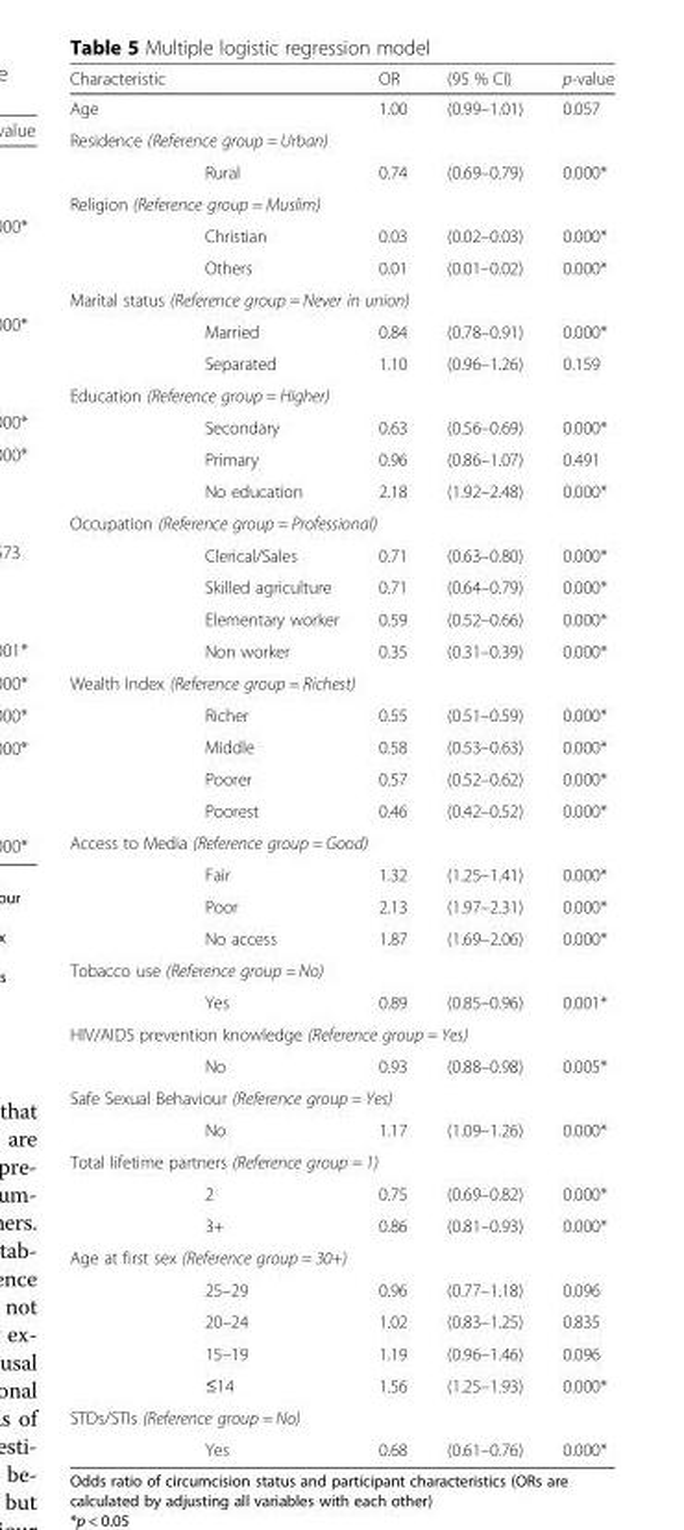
<table><thead><tr><td>Characteristic</td><td></td><td>OR</td><td>(95 % CI)</td><td>p-value</td></tr></thead><tbody><tr><td>Age</td><td></td><td>1.00</td><td>(0.99–1.01)</td><td>0.057</td></tr><tr><td colspan="5">Residence (Reference group = Urban)</td></tr><tr><td></td><td>Rural</td><td>0.74</td><td>(0.69–0.79)</td><td>0.000*</td></tr><tr><td colspan="5">Religion (Reference group = Muslim)</td></tr><tr><td></td><td>Christian</td><td>0.03</td><td>(0.02–0.03)</td><td>0.000*</td></tr><tr><td></td><td>Others</td><td>0.01</td><td>(0.01–0.02)</td><td>0.000*</td></tr><tr><td colspan="5">Marital status (Reference group = Never in union)</td></tr><tr><td></td><td>Married</td><td>0.84</td><td>(0.78–0.91)</td><td>0.000*</td></tr><tr><td></td><td>Separated</td><td>1.10</td><td>(0.96–1.26)</td><td>0.159</td></tr><tr><td colspan="5">Education (Reference group = Higher)</td></tr><tr><td></td><td>Secondary</td><td>0.63</td><td>(0.56–0.69)</td><td>0.000*</td></tr><tr><td></td><td>Primary</td><td>0.96</td><td>(0.86–1.07)</td><td>0.491</td></tr><tr><td></td><td>No education</td><td>2.18</td><td>(1.92–2.48)</td><td>0.000*</td></tr><tr><td colspan="5">Occupation (Reference group = Professional)</td></tr><tr><td></td><td>Clerical/Sales</td><td>0.71</td><td>(0.63–0.80)</td><td>0.000*</td></tr><tr><td></td><td>Skilled agriculture</td><td>0.71</td><td>(0.64–0.79)</td><td>0.000*</td></tr><tr><td></td><td>Elementary worker</td><td>0.59</td><td>(0.52–0.66)</td><td>0.000*</td></tr><tr><td></td><td>Non worker</td><td>0.35</td><td>(0.31–0.39)</td><td>0.000*</td></tr><tr><td colspan="5">Wealth Index (Reference group = Richest)</td></tr><tr><td></td><td>Richer</td><td>0.55</td><td>(0.51–0.59)</td><td>0.000*</td></tr><tr><td></td><td>Middle</td><td>0.58</td><td>(0.53–0.63)</td><td>0.000*</td></tr><tr><td></td><td>Poorer</td><td>0.57</td><td>(0.52–0.62)</td><td>0.000*</td></tr><tr><td></td><td>Poorest</td><td>0.46</td><td>(0.42–0.52)</td><td>0.000*</td></tr><tr><td colspan="5">Access to Media (Reference group = Good)</td></tr><tr><td></td><td>Fair</td><td>1.32</td><td>(1.25–1.41)</td><td>0.000*</td></tr><tr><td></td><td>Poor</td><td>2.13</td><td>(1.97–2.31)</td><td>0.000*</td></tr><tr><td></td><td>No access</td><td>1.87</td><td>(1.69–2.06)</td><td>0.000*</td></tr><tr><td colspan="5">Tobacco use (Reference group = No)</td></tr><tr><td></td><td>Yes</td><td>0.89</td><td>(0.85–0.96)</td><td>0.001*</td></tr><tr><td colspan="5">HIV/AIDS prevention knowledge (Reference group = Yes)</td></tr><tr><td></td><td>No</td><td>0.93</td><td>(0.88–0.98)</td><td>0.005*</td></tr><tr><td colspan="5">Safe Sexual Behaviour (Reference group = Yes)</td></tr><tr><td></td><td>No</td><td>1.17</td><td>(1.09–1.26)</td><td>0.000*</td></tr><tr><td colspan="5">Total lifetime partners (Reference group = 1)</td></tr><tr><td></td><td>2</td><td>0.75</td><td>(0.69–0.82)</td><td>0.000*</td></tr><tr><td></td><td>3+</td><td>0.86</td><td>(0.81–0.93)</td><td>0.000*</td></tr><tr><td colspan="5">Age at first sex (Reference group = 30+)</td></tr><tr><td></td><td>25–29</td><td>0.96</td><td>(0.77–1.18)</td><td>0.096</td></tr><tr><td></td><td>20–24</td><td>1.02</td><td>(0.83–1.25)</td><td>0.835</td></tr><tr><td></td><td>15–19</td><td>1.19</td><td>(0.96–1.46)</td><td>0.096</td></tr><tr><td></td><td>≤14</td><td>1.56</td><td>(1.25–1.93)</td><td>0.000*</td></tr><tr><td colspan="5">STDs/STIs (Reference group = No)</td></tr><tr><td></td><td>Yes</td><td>0.68</td><td>(0.61–0.76)</td><td>0.000*</td></tr></tbody></table>